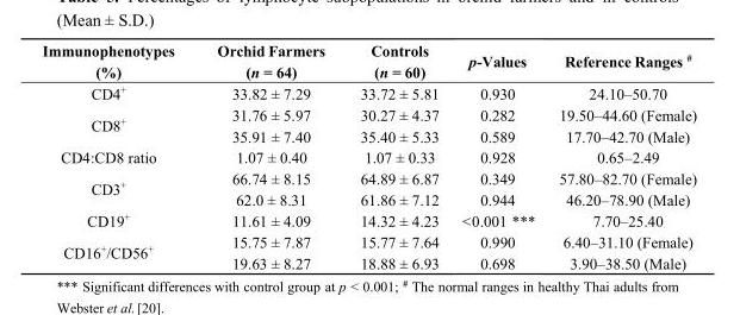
<table><thead><tr><td>Immunophenotypes (%)</td><td>Orchid Farmers (n = 64)</td><td>Controls (n = 60)</td><td>p-Values</td><td>Reference Ranges <sup>#</sup></td></tr></thead><tbody><tr><td>CD4<sup>+</sup></td><td>33.82 ± 7.29</td><td>33.72 ± 5.81</td><td>0.930</td><td>24.10–50.70</td></tr><tr><td rowspan="2">CD8<sup>+</sup></td><td>31.76 ± 5.97</td><td>30.27 ± 4.37</td><td>0.282</td><td>19.50–44.60 (Female)</td></tr><tr><td>35.91 ± 7.40</td><td>35.40 ± 5.33</td><td>0.589</td><td>17.70–42.70 (Male)</td></tr><tr><td>CD4:CD8 ratio</td><td>1.07 ± 0.40</td><td>1.07 ± 0.33</td><td>0.928</td><td>0.65–2.49</td></tr><tr><td rowspan="2">CD3<sup>+</sup></td><td>66.74 ± 8.15</td><td>64.89 ± 6.87</td><td>0.349</td><td>57.80–82.70 (Female)</td></tr><tr><td>62.0 ± 8.31</td><td>61.86 ± 7.12</td><td>0.944</td><td>46.20–78.90 (Male)</td></tr><tr><td>CD19<sup>+</sup></td><td>11.61 ± 4.09</td><td>14.32 ± 4.23</td><td>&lt;0.001 ***</td><td>7.70–25.40</td></tr><tr><td rowspan="2">CD16<sup>+</sup>/CD56<sup>+</sup></td><td>15.75 ± 7.87</td><td>15.77 ± 7.64</td><td>0.990</td><td>6.40–31.10 (Female)</td></tr><tr><td>19.63 ± 8.27</td><td>18.88 ± 6.93</td><td>0.698</td><td>3.90–38.50 (Male)</td></tr></tbody></table>